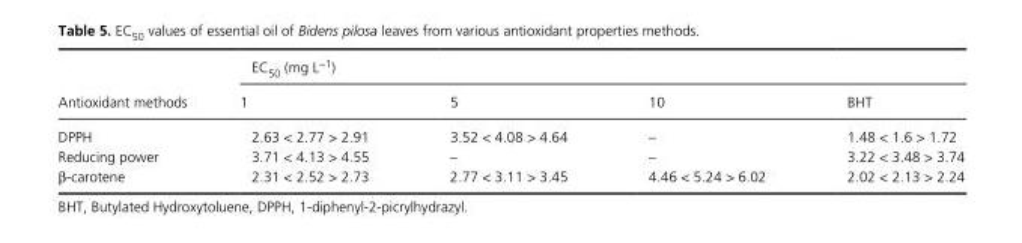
<table><thead><tr><td rowspan="2">Antioxidant methods</td><td colspan="4">EC<sub>50</sub> (mg L<sup>−1</sup>)</td></tr><tr><td>1</td><td>5</td><td>10</td><td>BHT</td></tr></thead><tbody><tr><td>DPPH</td><td>2.63 &lt; 2.77 &gt; 2.91</td><td>3.52 &lt; 4.08 &gt; 4.64</td><td>–</td><td>1.48 &lt; 1.6 &gt; 1.72</td></tr><tr><td>Reducing power</td><td>3.71 &lt; 4.13 &gt; 4.55</td><td>–</td><td>–</td><td>3.22 &lt; 3.48 &gt; 3.74</td></tr><tr><td>β- carotene</td><td>2.31 &lt; 2.52 &gt; 2.73</td><td>2.77 &lt; 3.11 &gt; 3.45</td><td>4.46 &lt; 5.24 &gt; 6.02</td><td>2.02 &lt; 2.13 &gt; 2.24</td></tr></tbody></table>